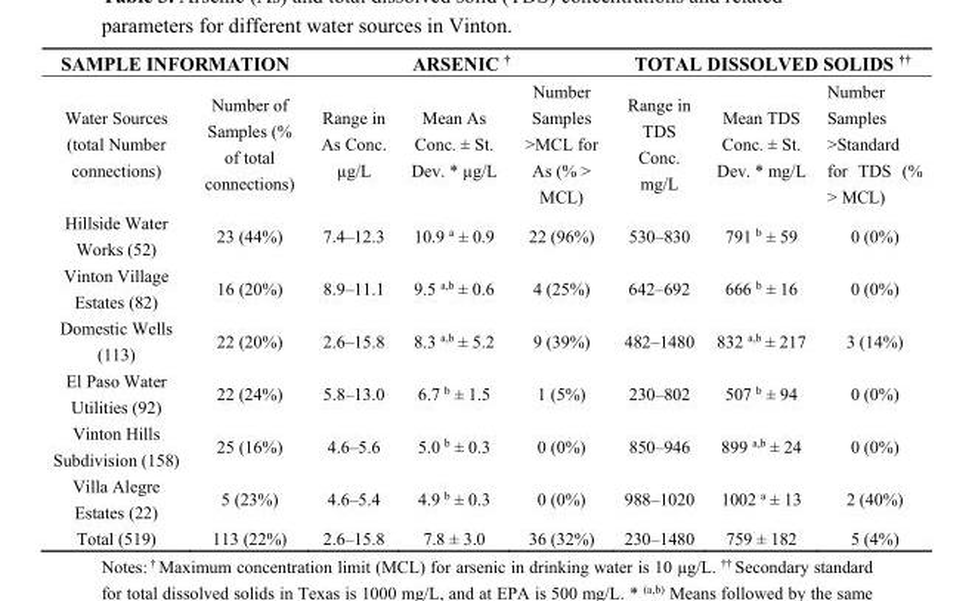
<table><thead><tr><td colspan="2">SAMPLE INFORMATION</td><td colspan="3">ARSENIC <sup>†</sup></td><td colspan="3">TOTAL DISSOLVED SOLIDS <sup>††</sup></td></tr><tr><td>Water Sources (total Number connections)</td><td>Number of Samples (% of total connections)</td><td>Range in As Conc. µg/L</td><td>Mean As Conc. ± St. Dev. * µg/L</td><td>Number Samples &gt;MCL for As (% &gt; MCL)</td><td>Range in TDS Conc. mg/L</td><td>Mean TDS Conc. ± St. Dev. * mg/L</td><td>Number Samples &gt;Standard for TDS (% &gt; MCL)</td></tr></thead><tbody><tr><td>Hillside Water Works (52)</td><td>23 (44%)</td><td>7.4–12.3</td><td>10.9 <sup>a</sup> ± 0.9</td><td>22 (96%)</td><td>530–830</td><td>791 <sup>b</sup> ± 59</td><td>0 (0%)</td></tr><tr><td>Vinton Village Estates (82)</td><td>16 (20%)</td><td>8.9–11.1</td><td>9.5 <sup>a,b</sup> ± 0.6</td><td>4 (25%)</td><td>642–692</td><td>666 <sup>b</sup> ± 16</td><td>0 (0%)</td></tr><tr><td>Domestic Wells (113)</td><td>22 (20%)</td><td>2.6–15.8</td><td>8.3 <sup>a,b</sup> ± 5.2</td><td>9 (39%)</td><td>482–1480</td><td>832 <sup>a,b</sup> ± 217</td><td>3 (14%)</td></tr><tr><td>El Paso Water Utilities (92)</td><td>22 (24%)</td><td>5.8–13.0</td><td>6.7 <sup>b</sup> ± 1.5</td><td>1 (5%)</td><td>230–802</td><td>507 <sup>b</sup> ± 94</td><td>0 (0%)</td></tr><tr><td>Vinton Hills Subdivision (158)</td><td>25 (16%)</td><td>4.6–5.6</td><td>5.0 <sup>b</sup> ± 0.3</td><td>0 (0%)</td><td>850–946</td><td>899 <sup>a,b</sup> ± 24</td><td>0 (0%)</td></tr><tr><td>Villa Alegre Estates (22)</td><td>5 (23%)</td><td>4.6–5.4</td><td>4.9 <sup>b</sup> ± 0.3</td><td>0 (0%)</td><td>988–1020</td><td>1002 <sup>a</sup> ± 13</td><td>2 (40%)</td></tr><tr><td>Total (519)</td><td>113 (22%)</td><td>2.6–15.8</td><td>7.8 ± 3.0</td><td>36 (32%)</td><td>230–1480</td><td>759 ± 182</td><td>5 (4%)</td></tr></tbody></table>